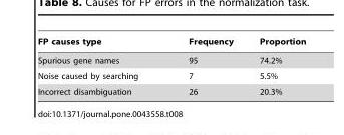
<table><thead><tr><td>FP causes type</td><td>Frequency</td><td>Proportion</td></tr></thead><tbody><tr><td>Spurious gene names</td><td>95</td><td>74.2%</td></tr><tr><td>Noise caused by searching</td><td>7</td><td>5.5%</td></tr><tr><td>Incorrect disambiguation</td><td>26</td><td>20.3%</td></tr></tbody></table>